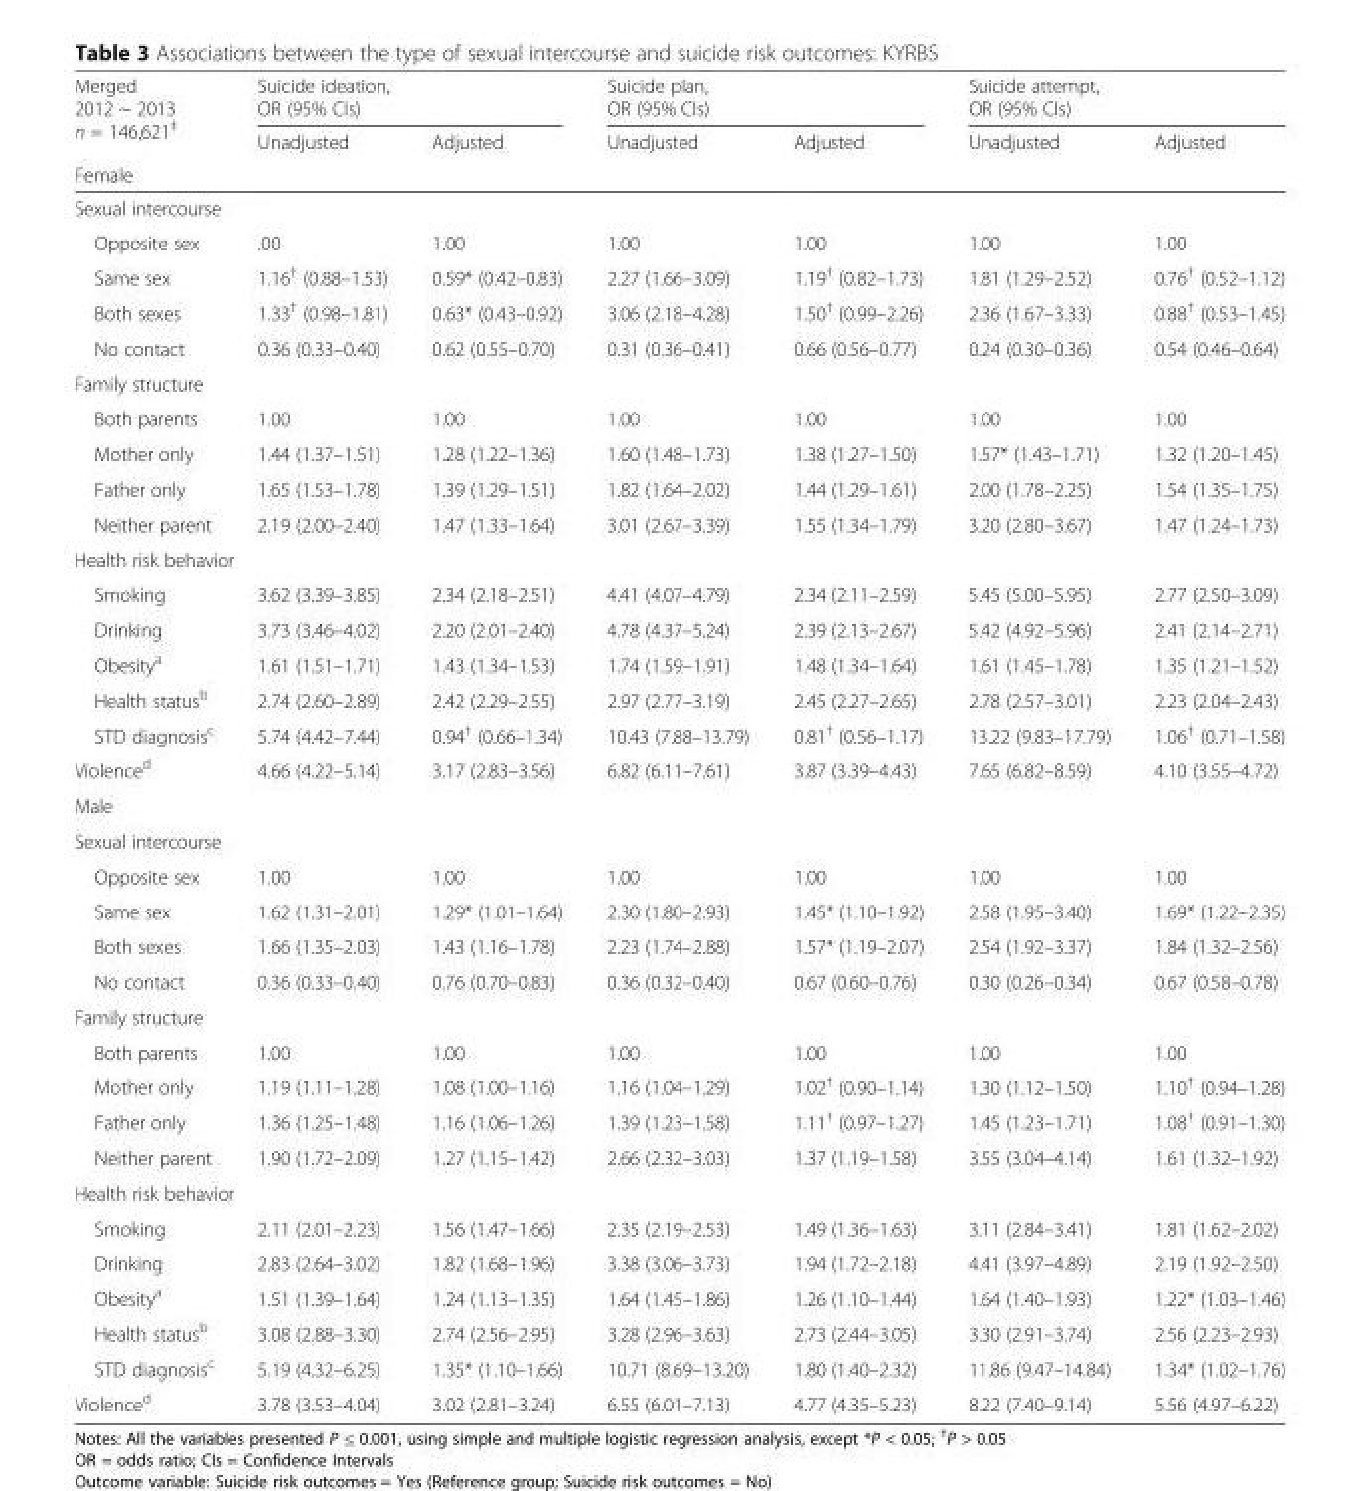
<table><thead><tr><td rowspan="3">Merged 2012 ~ 2013 n = 146,621<sup>‡</sup> Female</td><td colspan="2">Suicide ideation, OR (95% CIs)</td><td colspan="2">Suicide plan, OR (95% CIs)</td><td colspan="2">Suicide attempt, OR (95% CIs)</td></tr><tr><td rowspan="2">Unadjusted</td><td rowspan="2">Adjusted</td><td rowspan="2">Unadjusted</td><td rowspan="2">Adjusted</td><td rowspan="2">Unadjusted</td><td rowspan="2">Adjusted</td></tr><tr></tr></thead><tbody><tr><td colspan="7">Sexual intercourse</td></tr><tr><td>Opposite sex</td><td>.00</td><td>1.00</td><td>1.00</td><td>1.00</td><td>1.00</td><td>1.00</td></tr><tr><td>Same sex</td><td>1.16<sup>†</sup> (0.88–1.53)</td><td>0.59* (0.42–0.83)</td><td>2.27 (1.66–3.09)</td><td>1.19<sup>†</sup> (0.82–1.73)</td><td>1.81 (1.29–2.52)</td><td>0.76<sup>†</sup> (0.52–1.12)</td></tr><tr><td>Both sexes</td><td>1.33<sup>†</sup> (0.98–1.81)</td><td>0.63* (0.43–0.92)</td><td>3.06 (2.18–4.28)</td><td>1.50<sup>†</sup> (0.99–2.26)</td><td>2.36 (1.67–3.33)</td><td>0.88<sup>†</sup> (0.53–1.45)</td></tr><tr><td>No contact</td><td>0.36 (0.33–0.40)</td><td>0.62 (0.55–0.70)</td><td>0.31 (0.36–0.41)</td><td>0.66 (0.56–0.77)</td><td>0.24 (0.30–0.36)</td><td>0.54 (0.46–0.64)</td></tr><tr><td colspan="7">Family structure</td></tr><tr><td>Both parents</td><td>1.00</td><td>1.00</td><td>1.00</td><td>1.00</td><td>1.00</td><td>1.00</td></tr><tr><td>Mother only</td><td>1.44 (1.37–1.51)</td><td>1.28 (1.22–1.36)</td><td>1.60 (1.48–1.73)</td><td>1.38 (1.27–1.50)</td><td>1.57* (1.43–1.71)</td><td>1.32 (1.20–1.45)</td></tr><tr><td>Father only</td><td>1.65 (1.53–1.78)</td><td>1.39 (1.29–1.51)</td><td>1.82 (1.64–2.02)</td><td>1.44 (1.29–1.61)</td><td>2.00 (1.78–2.25)</td><td>1.54 (1.35–1.75)</td></tr><tr><td>Neither parent</td><td>2.19 (2.00–2.40)</td><td>1.47 (1.33–1.64)</td><td>3.01 (2.67–3.39)</td><td>1.55 (1.34–1.79)</td><td>3.20 (2.80–3.67)</td><td>1.47 (1.24–1.73)</td></tr><tr><td colspan="7">Health risk behavior</td></tr><tr><td>Smoking</td><td>3.62 (3.39–3.85)</td><td>2.34 (2.18–2.51)</td><td>4.41 (4.07–4.79)</td><td>2.34 (2.11–2.59)</td><td>5.45 (5.00–5.95)</td><td>2.77 (2.50–3.09)</td></tr><tr><td>Drinking</td><td>3.73 (3.46–4.02)</td><td>2.20 (2.01–2.40)</td><td>4.78 (4.37–5.24)</td><td>2.39 (2.13–2.67)</td><td>5.42 (4.92–5.96)</td><td>2.41 (2.14–2.71)</td></tr><tr><td>Obesity<sup>a</sup></td><td>1.61 (1.51–1.71)</td><td>1.43 (1.34–1.53)</td><td>1.74 (1.59–1.91)</td><td>1.48 (1.34–1.64)</td><td>1.61 (1.45–1.78)</td><td>1.35 (1.21–1.52)</td></tr><tr><td>Health status<sup>b</sup></td><td>2.74 (2.60–2.89)</td><td>2.42 (2.29–2.55)</td><td>2.97 (2.77–3.19)</td><td>2.45 (2.27–2.65)</td><td>2.78 (2.57–3.01)</td><td>2.23 (2.04–2.43)</td></tr><tr><td>STD diagnosis<sup>c</sup></td><td>5.74 (4.42–7.44)</td><td>0.94<sup>†</sup> (0.66–1.34)</td><td>10.43 (7.88–13.79)</td><td>0.81<sup>†</sup> (0.56–1.17)</td><td>13.22 (9.83–17.79)</td><td>1.06<sup>†</sup> (0.71–1.58)</td></tr><tr><td>Violence<sup>d</sup></td><td>4.66 (4.22–5.14)</td><td>3.17 (2.83–3.56)</td><td>6.82 (6.11–7.61)</td><td>3.87 (3.39–4.43)</td><td>7.65 (6.82–8.59)</td><td>4.10 (3.55–4.72)</td></tr><tr><td colspan="7">Male</td></tr><tr><td colspan="7">Sexual intercourse</td></tr><tr><td>Opposite sex</td><td>1.00</td><td>1.00</td><td>1.00</td><td>1.00</td><td>1.00</td><td>1.00</td></tr><tr><td>Same sex</td><td>1.62 (1.31–2.01)</td><td>1.29* (1.01–1.64)</td><td>2.30 (1.80–2.93)</td><td>1.45* (1.10–1.92)</td><td>2.58 (1.95–3.40)</td><td>1.69* (1.22–2.35)</td></tr><tr><td>Both sexes</td><td>1.66 (1.35–2.03)</td><td>1.43 (1.16–1.78)</td><td>2.23 (1.74–2.88)</td><td>1.57* (1.19–2.07)</td><td>2.54 (1.92–3.37)</td><td>1.84 (1.32–2.56)</td></tr><tr><td>No contact</td><td>0.36 (0.33–0.40)</td><td>0.76 (0.70–0.83)</td><td>0.36 (0.32–0.40)</td><td>0.67 (0.60–0.76)</td><td>0.30 (0.26–0.34)</td><td>0.67 (0.58–0.78)</td></tr><tr><td colspan="7">Family structure</td></tr><tr><td>Both parents</td><td>1.00</td><td>1.00</td><td>1.00</td><td>1.00</td><td>1.00</td><td>1.00</td></tr><tr><td>Mother only</td><td>1.19 (1.11–1.28)</td><td>1.08 (1.00–1.16)</td><td>1.16 (1.04–1.29)</td><td>1.02<sup>†</sup> (0.90–1.14)</td><td>1.30 (1.12–1.50)</td><td>1.10<sup>†</sup> (0.94–1.28)</td></tr><tr><td>Father only</td><td>1.36 (1.25–1.48)</td><td>1.16 (1.06–1.26)</td><td>1.39 (1.23–1.58)</td><td>1.11<sup>†</sup> (0.97–1.27)</td><td>1.45 (1.23–1.71)</td><td>1.08<sup>†</sup> (0.91–1.30)</td></tr><tr><td>Neither parent</td><td>1.90 (1.72–2.09)</td><td>1.27 (1.15–1.42)</td><td>2.66 (2.32–3.03)</td><td>1.37 (1.19–1.58)</td><td>3.55 (3.04–4.14)</td><td>1.61 (1.32–1.92)</td></tr><tr><td colspan="7">Health risk behavior</td></tr><tr><td>Smoking</td><td>2.11 (2.01–2.23)</td><td>1.56 (1.47–1.66)</td><td>2.35 (2.19–2.53)</td><td>1.49 (1.36–1.63)</td><td>3.11 (2.84–3.41)</td><td>1.81 (1.62–2.02)</td></tr><tr><td>Drinking</td><td>2.83 (2.64–3.02)</td><td>1.82 (1.68–1.96)</td><td>3.38 (3.06–3.73)</td><td>1.94 (1.72–2.18)</td><td>4.41 (3.97–4.89)</td><td>2.19 (1.92–2.50)</td></tr><tr><td>Obesity<sup>a</sup></td><td>1.51 (1.39–1.64)</td><td>1.24 (1.13–1.35)</td><td>1.64 (1.45–1.86)</td><td>1.26 (1.10–1.44)</td><td>1.64 (1.40–1.93)</td><td>1.22* (1.03–1.46)</td></tr><tr><td>Health status<sup>b</sup></td><td>3.08 (2.88–3.30)</td><td>2.74 (2.56–2.95)</td><td>3.28 (2.96–3.63)</td><td>2.73 (2.44–3.05)</td><td>3.30 (2.91–3.74)</td><td>2.56 (2.23–2.93)</td></tr><tr><td>STD diagnosis<sup>c</sup></td><td>5.19 (4.32–6.25)</td><td>1.35* (1.10–1.66)</td><td>10.71 (8.69–13.20)</td><td>1.80 (1.40–2.32)</td><td>11.86 (9.47–14.84)</td><td>1.34* (1.02–1.76)</td></tr><tr><td>Violence<sup>d</sup></td><td>3.78 (3.53–4.04)</td><td>3.02 (2.81–3.24)</td><td>6.55 (6.01–7.13)</td><td>4.77 (4.35–5.23)</td><td>8.22 (7.40–9.14)</td><td>5.56 (4.97–6.22)</td></tr></tbody></table>